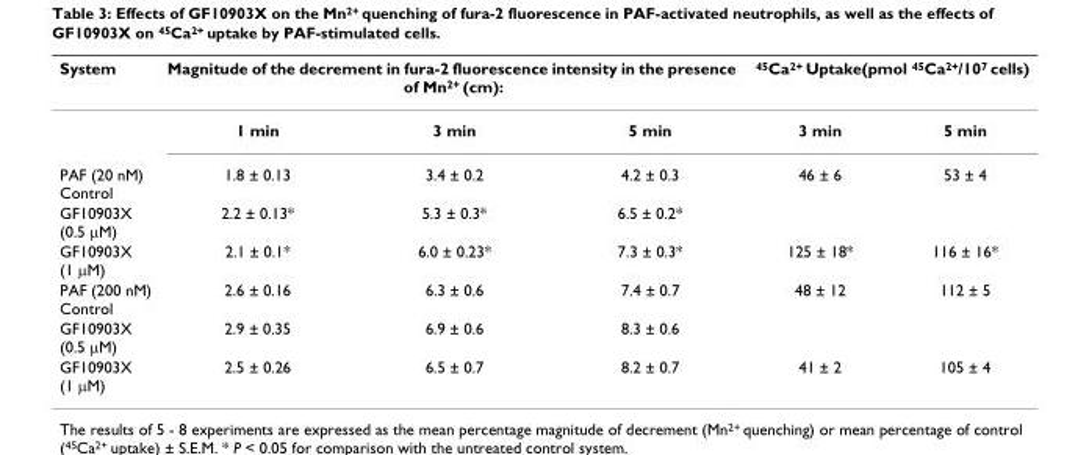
<table><thead><tr><td rowspan="2">System</td><td colspan="3">Magnitude of the decrement in fura-2 fluorescence intensity in the presence of Mn<sup>2+</sup> (cm):</td><td colspan="2"><sup>45</sup>Ca<sup>2+</sup> Uptake(pmol <sup>45</sup>Ca<sup>2+</sup>/10<sup>7</sup> cells)</td></tr><tr><td>1 min</td><td>3 min</td><td>5 min</td><td>3 min</td><td>5 min</td></tr></thead><tbody><tr><td>PAF (20 nM) Control</td><td>1.8 ± 0.13</td><td>3.4 ± 0.2</td><td>4.2 ± 0.3</td><td>46 ± 6</td><td>53 ± 4</td></tr><tr><td>GF10903X (0.5 μM)</td><td>2.2 ± 0.13*</td><td>5.3 ± 0.3*</td><td>6.5 ± 0.2*</td><td></td><td></td></tr><tr><td>GF10903X (1 μM)</td><td>2.1 ± 0.1*</td><td>6.0 ± 0.23*</td><td>7.3 ± 0.3*</td><td>125 ± 18*</td><td>116 ± 16*</td></tr><tr><td>PAF (200 nM) Control</td><td>2.6 ± 0.16</td><td>6.3 ± 0.6</td><td>7.4 ± 0.7</td><td>48 ± 12</td><td>112 ± 5</td></tr><tr><td>GF10903X (0.5 μM)</td><td>2.9 ± 0.35</td><td>6.9 ± 0.6</td><td>8.3 ± 0.6</td><td></td><td></td></tr><tr><td>GF10903X (1 μM)</td><td>2.5 ± 0.26</td><td>6.5 ± 0.7</td><td>8.2 ± 0.7</td><td>41 ± 2</td><td>105 ± 4</td></tr></tbody></table>